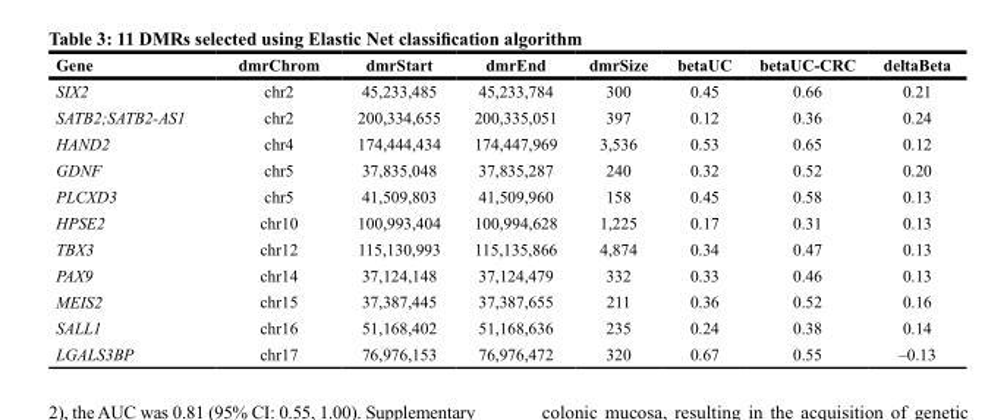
<table><thead><tr><td>Gene</td><td>dmrChrom</td><td>dmrStart</td><td>dmrEnd</td><td>dmrSize</td><td>betaUC</td><td>betaUC-CRC</td><td>deltaBeta</td></tr></thead><tbody><tr><td>SIX2</td><td>chr2</td><td>45,233,485</td><td>45,233,784</td><td>300</td><td>0.45</td><td>0.66</td><td>0.21</td></tr><tr><td>SATB2;SATB2-AS1</td><td>chr2</td><td>200,334,655</td><td>200,335,051</td><td>397</td><td>0.12</td><td>0.36</td><td>0.24</td></tr><tr><td>HAND2</td><td>chr4</td><td>174,444,434</td><td>174,447,969</td><td>3,536</td><td>0.53</td><td>0.65</td><td>0.12</td></tr><tr><td>GDNF</td><td>chr5</td><td>37,835,048</td><td>37,835,287</td><td>240</td><td>0.32</td><td>0.52</td><td>0.20</td></tr><tr><td>PLCXD3</td><td>chr5</td><td>41,509,803</td><td>41,509,960</td><td>158</td><td>0.45</td><td>0.58</td><td>0.13</td></tr><tr><td>HPSE2</td><td>chr10</td><td>100,993,404</td><td>100,994,628</td><td>1,225</td><td>0.17</td><td>0.31</td><td>0.13</td></tr><tr><td>TBX3</td><td>chr12</td><td>115,130,993</td><td>115,135,866</td><td>4,874</td><td>0.34</td><td>0.47</td><td>0.13</td></tr><tr><td>PAX9</td><td>chr14</td><td>37,124,148</td><td>37,124,479</td><td>332</td><td>0.33</td><td>0.46</td><td>0.13</td></tr><tr><td>MEIS2</td><td>chr15</td><td>37,387,445</td><td>37,387,655</td><td>211</td><td>0.36</td><td>0.52</td><td>0.16</td></tr><tr><td>SALL1</td><td>chr16</td><td>51,168,402</td><td>51,168,636</td><td>235</td><td>0.24</td><td>0.38</td><td>0.14</td></tr><tr><td>LGALS3BP</td><td>chr17</td><td>76,976,153</td><td>76,976,472</td><td>320</td><td>0.67</td><td>0.55</td><td>–0.13</td></tr></tbody></table>